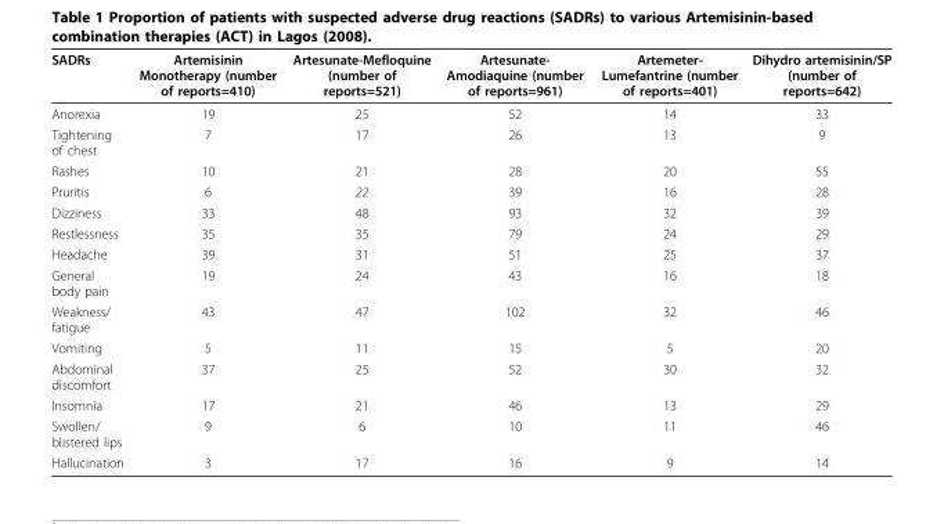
<table><thead><tr><td>SADRs</td><td>Artemisinin Monotherapy (number of reports=410)</td><td>Artesunate-Mefloquine (number of reports=521)</td><td>Artesunate- Amodiaquine (number of reports=961)</td><td>Artemeter- Lumefantrine (number of reports=401)</td><td>Dihydro artemisinin/SP (number of reports=642)</td></tr></thead><tbody><tr><td>Anorexia</td><td>19</td><td>25</td><td>52</td><td>14</td><td>33</td></tr><tr><td>Tightening of chest</td><td>7</td><td>17</td><td>26</td><td>13</td><td>9</td></tr><tr><td>Rashes</td><td>10</td><td>21</td><td>28</td><td>20</td><td>55</td></tr><tr><td>Pruritis</td><td>6</td><td>22</td><td>39</td><td>16</td><td>28</td></tr><tr><td>Dizziness</td><td>33</td><td>48</td><td>93</td><td>32</td><td>39</td></tr><tr><td>Restlessness</td><td>35</td><td>35</td><td>79</td><td>24</td><td>29</td></tr><tr><td>Headache</td><td>39</td><td>31</td><td>51</td><td>25</td><td>37</td></tr><tr><td>General body pain</td><td>19</td><td>24</td><td>43</td><td>16</td><td>18</td></tr><tr><td>Weakness/ fatigue</td><td>43</td><td>47</td><td>102</td><td>32</td><td>46</td></tr><tr><td>Vomiting</td><td>5</td><td>11</td><td>15</td><td>5</td><td>20</td></tr><tr><td>Abdominal discomfort</td><td>37</td><td>25</td><td>52</td><td>30</td><td>32</td></tr><tr><td>Insomnia</td><td>17</td><td>21</td><td>46</td><td>13</td><td>29</td></tr><tr><td>Swollen/ blistered lips</td><td>9</td><td>6</td><td>10</td><td>11</td><td>46</td></tr><tr><td>Hallucination</td><td>3</td><td>17</td><td>16</td><td>9</td><td>14</td></tr></tbody></table>